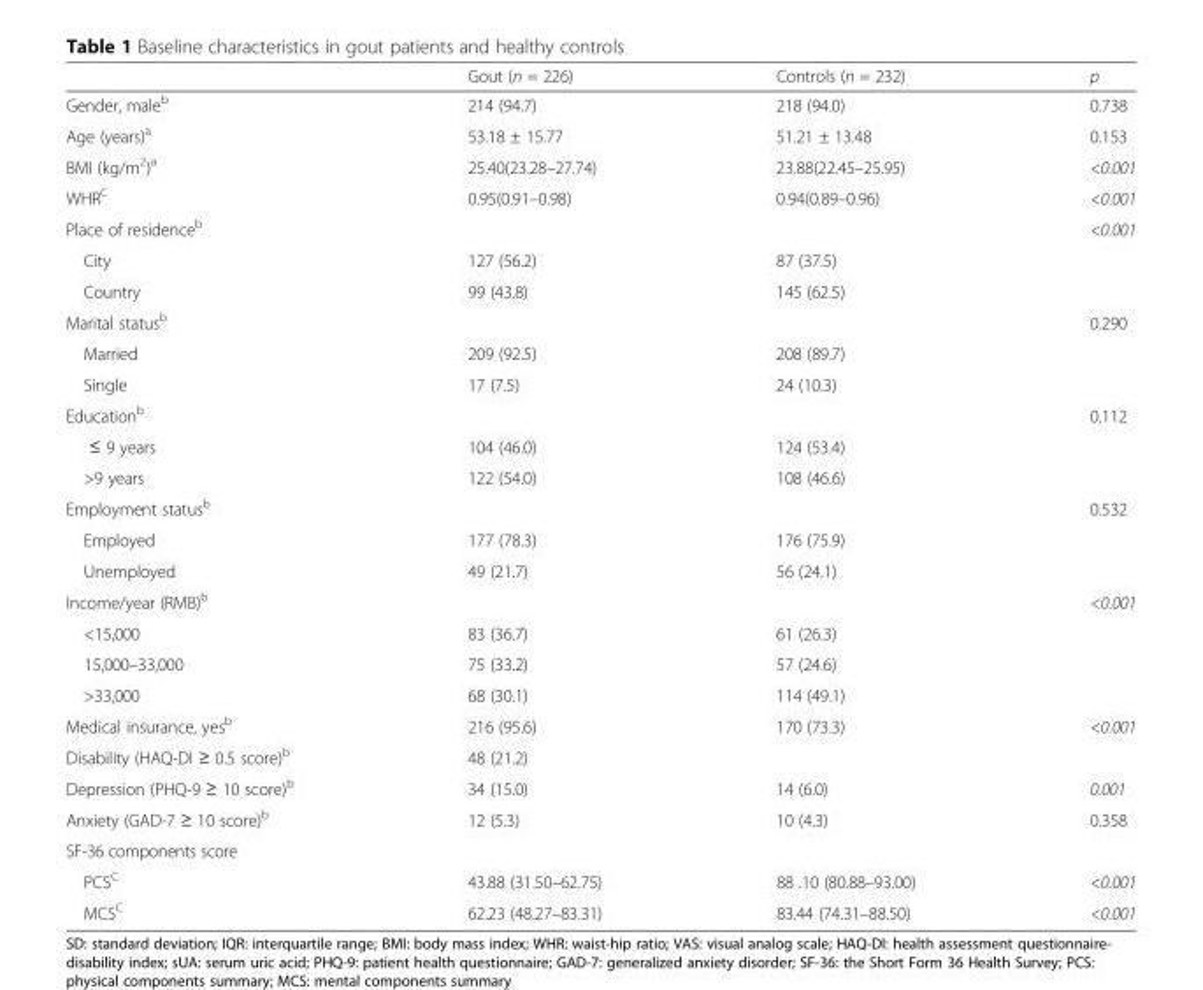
<table><thead><tr><td></td><td>Gout (n = 226)</td><td>Controls (n = 232)</td><td>p</td></tr></thead><tbody><tr><td>Gender, male<sup>b</sup></td><td>214 (94.7)</td><td>218 (94.0)</td><td>0.738</td></tr><tr><td>Age (years)<sup>a</sup></td><td>53.18 ± 15.77</td><td>51.21 ± 13.48</td><td>0.153</td></tr><tr><td>BMI (kg/m<sup>2</sup>)<sup>a</sup></td><td>25.40(23.28–27.74)</td><td>23.88(22.45–25.95)</td><td>&lt;0.001</td></tr><tr><td>WHR<sup>C</sup></td><td>0.95(0.91–0.98)</td><td>0.94(0.89–0.96)</td><td>&lt;0.001</td></tr><tr><td>Place of residence<sup>b</sup></td><td></td><td></td><td>&lt;0.001</td></tr><tr><td>City</td><td>127 (56.2)</td><td>87 (37.5)</td><td></td></tr><tr><td>Country</td><td>99 (43.8)</td><td>145 (62.5)</td><td></td></tr><tr><td>Marital status<sup>b</sup></td><td></td><td></td><td>0.290</td></tr><tr><td>Married</td><td>209 (92.5)</td><td>208 (89.7)</td><td></td></tr><tr><td>Single</td><td>17 (7.5)</td><td>24 (10.3)</td><td></td></tr><tr><td>Education<sup>b</sup></td><td></td><td></td><td>0.112</td></tr><tr><td>≤ 9 years</td><td>104 (46.0)</td><td>124 (53.4)</td><td></td></tr><tr><td>&gt;9 years</td><td>122 (54.0)</td><td>108 (46.6)</td><td></td></tr><tr><td>Employment status<sup>b</sup></td><td></td><td></td><td>0.532</td></tr><tr><td>Employed</td><td>177 (78.3)</td><td>176 (75.9)</td><td></td></tr><tr><td>Unemployed</td><td>49 (21.7)</td><td>56 (24.1)</td><td></td></tr><tr><td>Income/year (RMB)<sup>b</sup></td><td></td><td></td><td>&lt;0.001</td></tr><tr><td>&lt;15,000</td><td>83 (36.7)</td><td>61 (26.3)</td><td></td></tr><tr><td>15,000–33,000</td><td>75 (33.2)</td><td>57 (24.6)</td><td></td></tr><tr><td>&gt;33,000</td><td>68 (30.1)</td><td>114 (49.1)</td><td></td></tr><tr><td>Medical insurance, yes<sup>b</sup></td><td>216 (95.6)</td><td>170 (73.3)</td><td>&lt;0.001</td></tr><tr><td>Disability (HAQ-DI ≥ 0.5 score)<sup>b</sup></td><td>48 (21.2)</td><td></td><td></td></tr><tr><td>Depression (PHQ-9 ≥ 10 score)<sup>b</sup></td><td>34 (15.0)</td><td>14 (6.0)</td><td>0.001</td></tr><tr><td>Anxiety (GAD-7 ≥ 10 score)<sup>b</sup></td><td>12 (5.3)</td><td>10 (4.3)</td><td>0.358</td></tr><tr><td colspan="4">SF-36 components score</td></tr><tr><td>PCS<sup>C</sup></td><td>43.88 (31.50–62.75)</td><td>88 .10 (80.88–93.00)</td><td>&lt;0.001</td></tr><tr><td>MCS<sup>C</sup></td><td>62.23 (48.27–83.31)</td><td>83.44 (74.31–88.50)</td><td>&lt;0.001</td></tr></tbody></table>